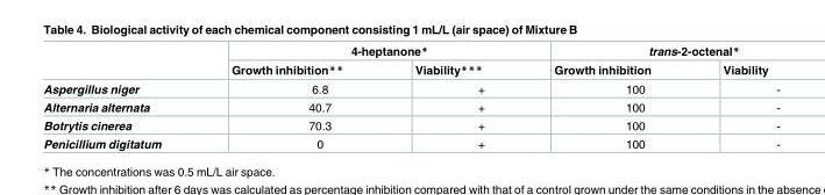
<table><thead><tr><td rowspan="2"></td><td colspan="2">4-heptanone*</td><td colspan="2">trans-2-octenal*</td></tr><tr><td>Growth inhibition**</td><td>Viability***</td><td>Growth inhibition</td><td>Viability</td></tr></thead><tbody><tr><td>Aspergillus niger</td><td>6.8</td><td>+</td><td>100</td><td>-</td></tr><tr><td>Alternaria alternata</td><td>40.7</td><td>+</td><td>100</td><td>-</td></tr><tr><td>Botrytis cinerea</td><td>70.3</td><td>+</td><td>100</td><td>-</td></tr><tr><td>Penicillium digitatum</td><td>0</td><td>+</td><td>100</td><td>-</td></tr></tbody></table>